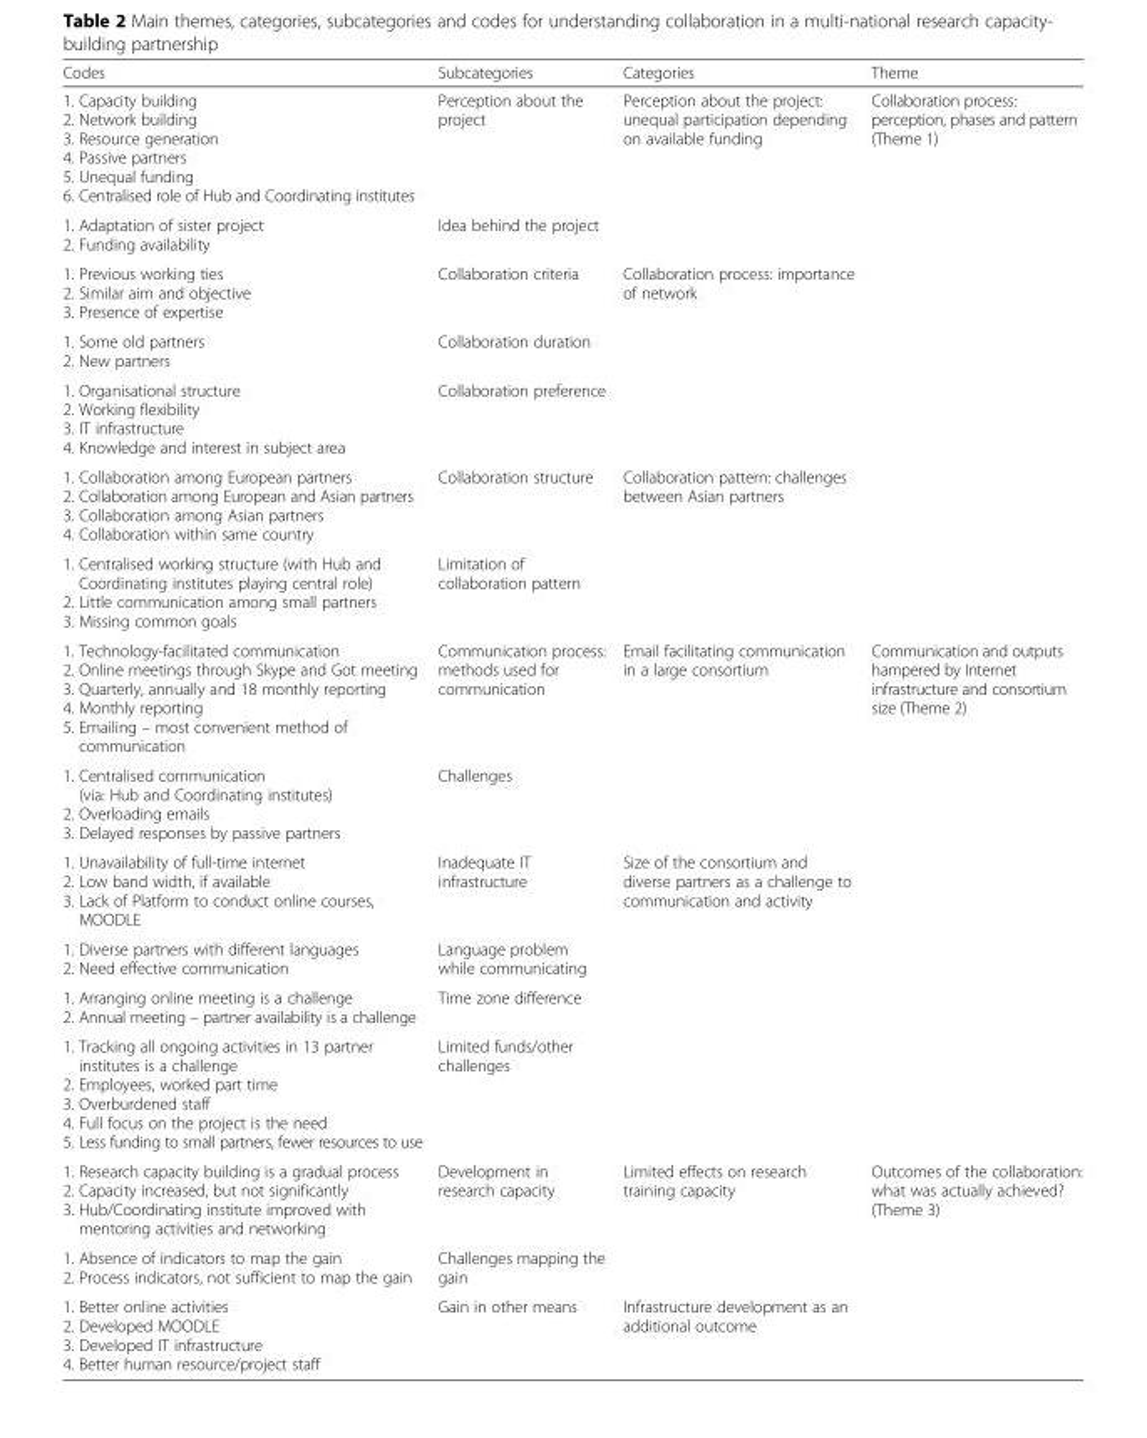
<table><thead><tr><td>Codes</td><td>Subcategories</td><td>Categories</td><td>Theme</td></tr></thead><tbody><tr><td>1. Capacity building 2. Network building 3. Resource generation 4. Passive partners 5. Unequal funding 6. Centralised role of Hub and Coordinating institutes</td><td>Perception about the project</td><td rowspan="2">Perception about the project: unequal participation depending on available funding</td><td rowspan="7">Collaboration process: perception, phases and pattern (Theme 1)</td></tr><tr><td>1. Adaptation of sister project 2. Funding availability</td><td>Idea behind the project</td></tr><tr><td>1. Previous working ties 2. Similar aim and objective 3. Presence of expertise</td><td>Collaboration criteria</td><td rowspan="3">Collaboration process: importance of network</td></tr><tr><td>1. Some old partners 2. New partners</td><td>Collaboration duration</td></tr><tr><td>1. Organisational structure 2. Working flexibility 3. IT infrastructure 4. Knowledge and interest in subject area</td><td>Collaboration preference</td></tr><tr><td>1. Collaboration among European partners 2. Collaboration among European and Asian partners 3. Collaboration among Asian partners 4. Collaboration within same country</td><td>Collaboration structure</td><td rowspan="2">Collaboration pattern: challenges between Asian partners</td></tr><tr><td>1. Centralised working structure (with Hub and Coordinating institutes playing central role) 2. Little communication among small partners 3. Missing common goals</td><td>Limitation of collaboration pattern</td></tr><tr><td>1. Technology-facilitated communication 2. Online meetings through Skype and Got meeting 3. Quarterly, annually and 18 monthly reporting 4. Monthly reporting 5. Emailing – most convenient method of communication</td><td>Communication process: methods used for communication</td><td rowspan="2">Email facilitating communication in a large consortium</td><td rowspan="6">Communication and outputs hampered by Internet infrastructure and consortium size (Theme 2)</td></tr><tr><td>1. Centralised communication (via: Hub and Coordinating institutes) 2. Overloading emails 3. Delayed responses by passive partners</td><td>Challenges</td></tr><tr><td>1. Unavailability of full-time internet 2. Low band width, if available 3. Lack of Platform to conduct online courses, MOODLE</td><td>Inadequate IT infrastructure</td><td rowspan="4">Size of the consortium and diverse partners as a challenge to communication and activity</td></tr><tr><td>1. Diverse partners with different languages 2. Need effective communication</td><td>Language problem while communicating</td></tr><tr><td>1. Arranging online meeting is a challenge 2. Annual meeting – partner availability is a challenge</td><td>Time zone difference</td></tr><tr><td>1. Tracking all ongoing activities in 13 partner institutes is a challenge 2. Employees, worked part time 3. Overburdened staff 4. Full focus on the project is the need 5. Less funding to small partners, fewer resources to use</td><td>Limited funds/other challenges</td></tr><tr><td>1. Research capacity building is a gradual process 2. Capacity increased, but not significantly 3. Hub/Coordinating institute improved with mentoring activities and networking</td><td>Development in research capacity</td><td rowspan="2">Limited effects on research training capacity</td><td rowspan="3">Outcomes of the collaboration: what was actually achieved? (Theme 3)</td></tr><tr><td>1. Absence of indicators to map the gain 2. Process indicators, not sufficient to map the gain</td><td>Challenges mapping the gain</td></tr><tr><td>1. Better online activities 2. Developed MOODLE 3. Developed IT infrastructure 4. Better human resource/project staff</td><td>Gain in other means</td><td>Infrastructure development as an additional outcome</td></tr></tbody></table>